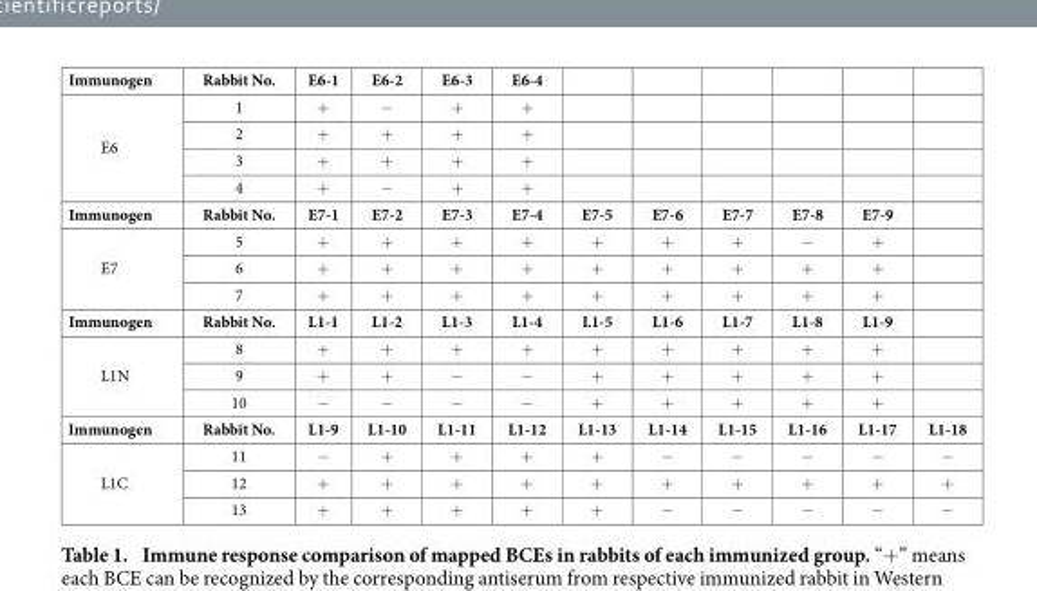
<table><tbody><tr><td>Immunogen</td><td>Rabbit No.</td><td>E6-1</td><td>E6-2</td><td>E6-3</td><td>E6-4</td><td></td><td></td><td></td><td></td><td></td><td></td></tr><tr><td rowspan="4">E6</td><td>1</td><td>+</td><td>−</td><td>+</td><td>+</td><td></td><td></td><td></td><td></td><td></td><td></td></tr><tr><td>2</td><td>+</td><td>+</td><td>+</td><td>+</td><td></td><td></td><td></td><td></td><td></td><td></td></tr><tr><td>3</td><td>+</td><td>+</td><td>+</td><td>+</td><td></td><td></td><td></td><td></td><td></td><td></td></tr><tr><td>4</td><td>+</td><td>−</td><td>+</td><td>+</td><td></td><td></td><td></td><td></td><td></td><td></td></tr><tr><td>Immunogen</td><td>Rabbit No.</td><td>E7-1</td><td>E7-2</td><td>E7-3</td><td>E7-4</td><td>E7-5</td><td>E7-6</td><td>E7-7</td><td>E7-8</td><td>E7-9</td><td></td></tr><tr><td rowspan="3">E7</td><td>5</td><td>+</td><td>+</td><td>+</td><td>+</td><td>+</td><td>+</td><td>+</td><td>−</td><td>+</td><td></td></tr><tr><td>6</td><td>+</td><td>+</td><td>+</td><td>+</td><td>+</td><td>+</td><td>+</td><td>+</td><td>+</td><td></td></tr><tr><td>7</td><td>+</td><td>+</td><td>+</td><td>+</td><td>+</td><td>+</td><td>+</td><td>+</td><td>+</td><td></td></tr><tr><td>Immunogen</td><td>Rabbit No.</td><td>L1-1</td><td>L1-2</td><td>L1-3</td><td>L1-4</td><td>L1-5</td><td>L1-6</td><td>L1-7</td><td>L1-8</td><td>L1-9</td><td></td></tr><tr><td rowspan="3">L1N</td><td>8</td><td>+</td><td>+</td><td>+</td><td>+</td><td>+</td><td>+</td><td>+</td><td>+</td><td>+</td><td></td></tr><tr><td>9</td><td>+</td><td>+</td><td>−</td><td>−</td><td>+</td><td>+</td><td>+</td><td>+</td><td>+</td><td></td></tr><tr><td>10</td><td>−</td><td>−</td><td>−</td><td>−</td><td>+</td><td>+</td><td>+</td><td>+</td><td>+</td><td></td></tr><tr><td>Immunogen</td><td>Rabbit No.</td><td>L1-9</td><td>L1-10</td><td>L1-11</td><td>L1-12</td><td>L1-13</td><td>L1-14</td><td>L1-15</td><td>L1-16</td><td>L1-17</td><td>L1-18</td></tr><tr><td rowspan="3">L1C</td><td>11</td><td>−</td><td>+</td><td>+</td><td>+</td><td>+</td><td>−</td><td>−</td><td>−</td><td>−</td><td>−</td></tr><tr><td>12</td><td>+</td><td>+</td><td>+</td><td>+</td><td>+</td><td>+</td><td>+</td><td>+</td><td>+</td><td>+</td></tr><tr><td>13</td><td>+</td><td>+</td><td>+</td><td>+</td><td>+</td><td>−</td><td>−</td><td>−</td><td>−</td><td>−</td></tr></tbody></table>